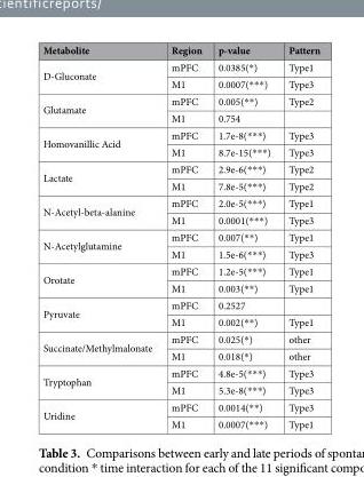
<table><thead><tr><td>Metabolite</td><td>Region</td><td>p-value</td><td>Pattern</td></tr></thead><tbody><tr><td rowspan="2">D-Gluconate</td><td>mPFC</td><td>0.0385(*)</td><td>Type1</td></tr><tr><td>M1</td><td>0.0007(***)</td><td>Type3</td></tr><tr><td rowspan="2">Glutamate</td><td>mPFC</td><td>0.005(**)</td><td>Type2</td></tr><tr><td>M1</td><td>0.754</td><td></td></tr><tr><td rowspan="2">Homovanillic Acid</td><td>mPFC</td><td>1.7e-8(***)</td><td>Type3</td></tr><tr><td>M1</td><td>8.7e-15(***)</td><td>Type3</td></tr><tr><td rowspan="2">Lactate</td><td>mPFC</td><td>2.9e-6(***)</td><td>Type2</td></tr><tr><td>M1</td><td>7.8e-5(***)</td><td>Type2</td></tr><tr><td rowspan="2">N-Acetyl-beta-alanine</td><td>mPFC</td><td>2.0e-5(***)</td><td>Type1</td></tr><tr><td>M1</td><td>0.0001(***)</td><td>Type3</td></tr><tr><td rowspan="2">N-Acetylglutamine</td><td>mPFC</td><td>0.007(**)</td><td>Type1</td></tr><tr><td>M1</td><td>1.5e-6(***)</td><td>Type3</td></tr><tr><td rowspan="2">Orotate</td><td>mPFC</td><td>1.2e-5(***)</td><td>Type1</td></tr><tr><td>M1</td><td>0.003(**)</td><td>Type1</td></tr><tr><td rowspan="2">Pyruvate</td><td>mPFC</td><td>0.2527</td><td></td></tr><tr><td>M1</td><td>0.002(**)</td><td>Type1</td></tr><tr><td rowspan="2">Succinate/Methylmalonate</td><td>mPFC</td><td>0.025(*)</td><td>other</td></tr><tr><td>M1</td><td>0.018(*)</td><td>other</td></tr><tr><td rowspan="2">Tryptophan</td><td>mPFC</td><td>4.8e-5(***)</td><td>Type3</td></tr><tr><td>M1</td><td>5.3e-8(***)</td><td>Type3</td></tr><tr><td rowspan="2">Uridine</td><td>mPFC</td><td>0.0014(**)</td><td>Type3</td></tr><tr><td>M1</td><td>0.0007(***)</td><td>Type1</td></tr></tbody></table>